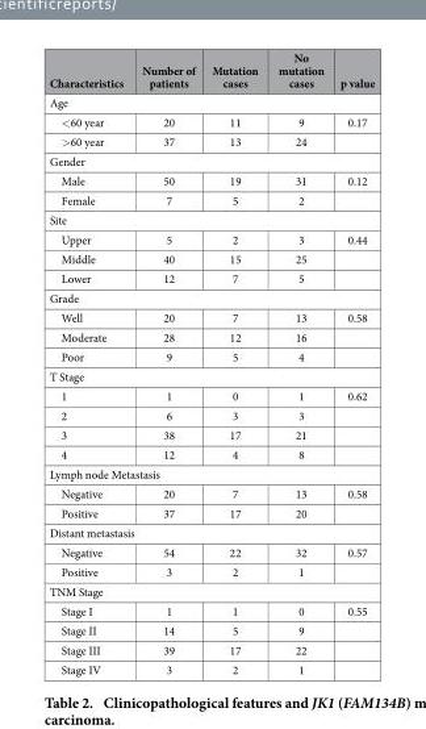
<table><thead><tr><td>Characteristics</td><td>Number of patients</td><td>Mutation cases</td><td>No mutation cases</td><td>p value</td></tr></thead><tbody><tr><td colspan="5">Age</td></tr><tr><td>&lt; 60 year</td><td>20</td><td>11</td><td>9</td><td>0.17</td></tr><tr><td>&gt; 60 year</td><td>37</td><td>13</td><td>24</td><td></td></tr><tr><td colspan="5">Gender</td></tr><tr><td>Male</td><td>50</td><td>19</td><td>31</td><td>0.12</td></tr><tr><td>Female</td><td>7</td><td>5</td><td>2</td><td></td></tr><tr><td colspan="5">Site</td></tr><tr><td>Upper</td><td>5</td><td>2</td><td>3</td><td>0.44</td></tr><tr><td>Middle</td><td>40</td><td>15</td><td>25</td><td></td></tr><tr><td>Lower</td><td>12</td><td>7</td><td>5</td><td></td></tr><tr><td colspan="5">Grade</td></tr><tr><td>Well</td><td>20</td><td>7</td><td>13</td><td>0.58</td></tr><tr><td>Moderate</td><td>28</td><td>12</td><td>16</td><td></td></tr><tr><td>Poor</td><td>9</td><td>5</td><td>4</td><td></td></tr><tr><td colspan="5">T Stage</td></tr><tr><td>1</td><td>1</td><td>0</td><td>1</td><td>0.62</td></tr><tr><td>2</td><td>6</td><td>3</td><td>3</td><td></td></tr><tr><td>3</td><td>38</td><td>17</td><td>21</td><td></td></tr><tr><td>4</td><td>12</td><td>4</td><td>8</td><td></td></tr><tr><td colspan="5">Lymph node Metastasis</td></tr><tr><td>Negative</td><td>20</td><td>7</td><td>13</td><td>0.58</td></tr><tr><td>Positive</td><td>37</td><td>17</td><td>20</td><td></td></tr><tr><td colspan="5">Distant metastasis</td></tr><tr><td>Negative</td><td>54</td><td>22</td><td>32</td><td>0.57</td></tr><tr><td>Positive</td><td>3</td><td>2</td><td>1</td><td></td></tr><tr><td colspan="5">TNM Stage</td></tr><tr><td>Stage I</td><td>1</td><td>1</td><td>0</td><td>0.55</td></tr><tr><td>Stage II</td><td>14</td><td>5</td><td>9</td><td></td></tr><tr><td>Stage III</td><td>39</td><td>17</td><td>22</td><td></td></tr><tr><td>Stage IV</td><td>3</td><td>2</td><td>1</td><td></td></tr></tbody></table>